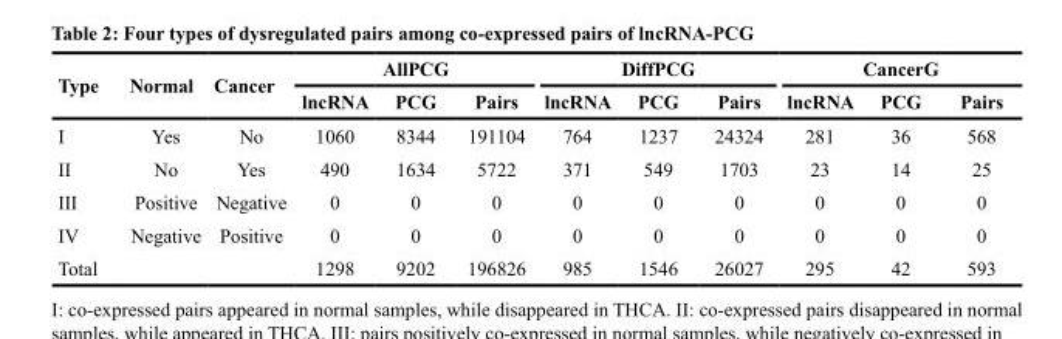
<table><thead><tr><td rowspan="2">Type</td><td rowspan="2">Normal</td><td rowspan="2">Cancer</td><td colspan="3">AllPCG</td><td colspan="3">DiffPCG</td><td colspan="3">CancerG</td></tr><tr><td>lncRNA</td><td>PCG</td><td>Pairs</td><td>lncRNA</td><td>PCG</td><td>Pairs</td><td>lncRNA</td><td>PCG</td><td>Pairs</td></tr></thead><tbody><tr><td>I</td><td>Yes</td><td>No</td><td>1060</td><td>8344</td><td>191104</td><td>764</td><td>1237</td><td>24324</td><td>281</td><td>36</td><td>568</td></tr><tr><td>II</td><td>No</td><td>Yes</td><td>490</td><td>1634</td><td>5722</td><td>371</td><td>549</td><td>1703</td><td>23</td><td>14</td><td>25</td></tr><tr><td>III</td><td>Positive</td><td>Negative</td><td>0</td><td>0</td><td>0</td><td>0</td><td>0</td><td>0</td><td>0</td><td>0</td><td>0</td></tr><tr><td>IV</td><td>Negative</td><td>Positive</td><td>0</td><td>0</td><td>0</td><td>0</td><td>0</td><td>0</td><td>0</td><td>0</td><td>0</td></tr><tr><td>Total</td><td></td><td></td><td>1298</td><td>9202</td><td>196826</td><td>985</td><td>1546</td><td>26027</td><td>295</td><td>42</td><td>593</td></tr></tbody></table>